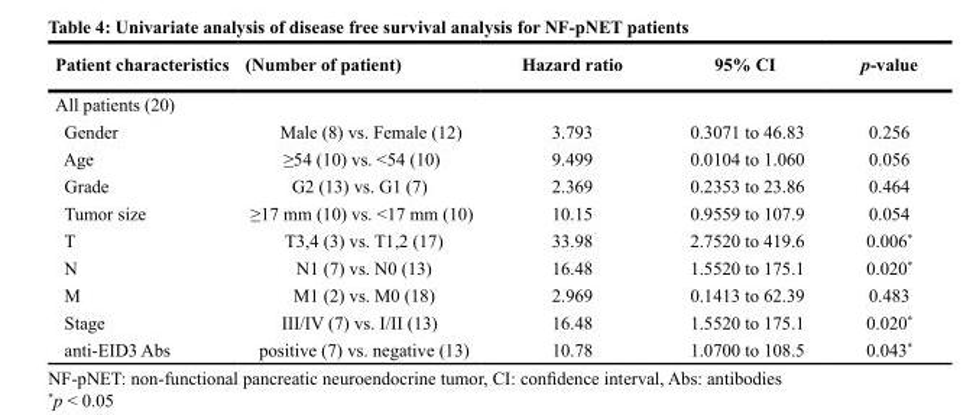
<table><thead><tr><td>Patient characteristics</td><td>(Number of patient)</td><td>Hazard ratio</td><td>95% CI</td><td>p-value</td></tr></thead><tbody><tr><td colspan="5">All patients (20)</td></tr><tr><td>Gender</td><td>Male (8) vs. Female (12)</td><td>3.793</td><td>0.3071 to 46.83</td><td>0.256</td></tr><tr><td>Age</td><td>≥54 (10) vs. &lt;54 (10)</td><td>9.499</td><td>0.0104 to 1.060</td><td>0.056</td></tr><tr><td>Grade</td><td>G2 (13) vs. G1 (7)</td><td>2.369</td><td>0.2353 to 23.86</td><td>0.464</td></tr><tr><td>Tumor size</td><td>≥17 mm (10) vs. &lt;17 mm (10)</td><td>10.15</td><td>0.9559 to 107.9</td><td>0.054</td></tr><tr><td>T</td><td>T3,4 (3) vs. T1,2 (17)</td><td>33.98</td><td>2.7520 to 419.6</td><td>0.006*</td></tr><tr><td>N</td><td>N1 (7) vs. N0 (13)</td><td>16.48</td><td>1.5520 to 175.1</td><td>0.020*</td></tr><tr><td>M</td><td>M1 (2) vs. M0 (18)</td><td>2.969</td><td>0.1413 to 62.39</td><td>0.483</td></tr><tr><td>Stage</td><td>III/IV (7) vs. I/II (13)</td><td>16.48</td><td>1.5520 to 175.1</td><td>0.020*</td></tr><tr><td>anti-EID3 Abs</td><td>positive (7) vs. negative (13)</td><td>10.78</td><td>1.0700 to 108.5</td><td>0.043*</td></tr></tbody></table>